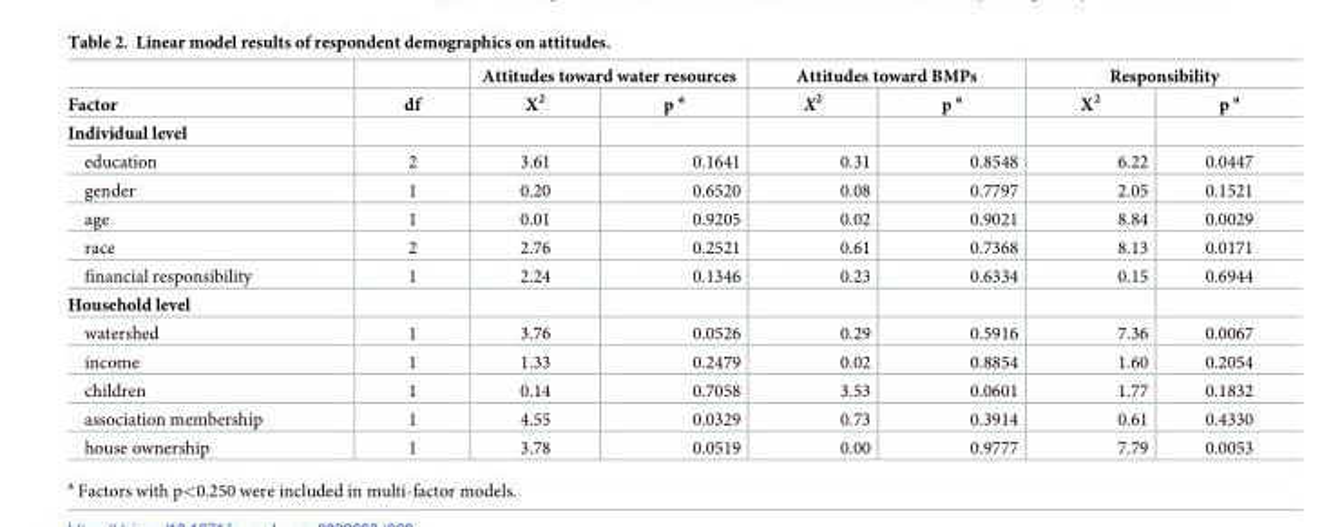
<table><thead><tr><td rowspan="2">Factor</td><td rowspan="2">df</td><td colspan="2">Attitudes toward water resources</td><td colspan="2">Attitudes toward BMPs</td><td colspan="2">Responsibility</td></tr><tr><td>X2</td><td>p <sup>a</sup></td><td>X<sup>2</sup></td><td>p <sup>a</sup></td><td>X<sup>2</sup></td><td>p <sup>a</sup></td></tr></thead><tbody><tr><td colspan="8">Individual level</td></tr><tr><td>education</td><td>2</td><td>3.61</td><td>0.1641</td><td>0.31</td><td>0.8548</td><td>6.22</td><td>0.0447</td></tr><tr><td>gender</td><td>1</td><td>0.20</td><td>0.6520</td><td>0.08</td><td>0.7797</td><td>2.05</td><td>0.1521</td></tr><tr><td>age</td><td>1</td><td>0.01</td><td>0.9205</td><td>0.02</td><td>0.9021</td><td>8.84</td><td>0.0029</td></tr><tr><td>race</td><td>2</td><td>2.76</td><td>0.2521</td><td>0.61</td><td>0.7368</td><td>8.13</td><td>0.0171</td></tr><tr><td>financial responsibility</td><td>1</td><td>2.24</td><td>0.1346</td><td>0.23</td><td>0.6334</td><td>0.15</td><td>0.6944</td></tr><tr><td colspan="8">Household level</td></tr><tr><td>watershed</td><td>1</td><td>3.76</td><td>0.0526</td><td>0.29</td><td>0.5916</td><td>7.36</td><td>0.0067</td></tr><tr><td>income</td><td>1</td><td>1.33</td><td>0.2479</td><td>0.02</td><td>0.8854</td><td>1.60</td><td>0.2054</td></tr><tr><td>children</td><td>1</td><td>0.14</td><td>0.7058</td><td>3.53</td><td>0.0601</td><td>1.77</td><td>0.1832</td></tr><tr><td>association membership</td><td>1</td><td>4.55</td><td>0.0329</td><td>0.73</td><td>0.3914</td><td>0.61</td><td>0.4330</td></tr><tr><td>house ownership</td><td>1</td><td>3.78</td><td>0.0519</td><td>0.00</td><td>0.9777</td><td>7.79</td><td>0.0053</td></tr></tbody></table>